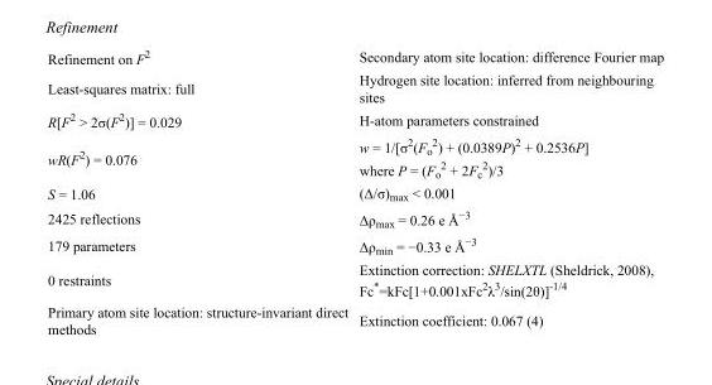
<table><tbody><tr><td>Refinement on F<sup>2</sup></td><td>Secondary atom site location: difference Fourier map</td></tr><tr><td>Least-squares matrix: full</td><td>Hydrogen site location: inferred from neighbouring sites</td></tr><tr><td>R[F<sup>2</sup> &gt; 2σ(F<sup>2</sup>)] = 0.029</td><td>H-atom parameters constrained</td></tr><tr><td>wR(F<sup>2</sup>) = 0.076</td><td>w = 1/[σ<sup>2</sup>(F<sub>o</sub> <sup>2</sup>) + (0.0389P)<sup>2</sup> + 0.2536P] where P = (F<sub>o</sub> <sup>2</sup> + 2F<sub>c</sub> <sup>2</sup>)/3</td></tr><tr><td>S = 1.06</td><td>(Δ/σ)<sub>max</sub> &lt; 0.001</td></tr><tr><td>2425 reflections</td><td>Δρ<sub>max</sub> = 0.26 e Å<sup>−3</sup></td></tr><tr><td>179 parameters</td><td>Δρ<sub>min</sub> = −0.33 e Å<sup>−3</sup></td></tr><tr><td>0 restraints</td><td>Extinction correction: SHELXTL (Sheldrick, 2008), Fc*=kFc[1+0.001xFc<sup>2</sup>λ<sup>3</sup>/sin(2θ)]<sup>-1/4</sup></td></tr><tr><td>Primary atom site location: structure-invariant direct methods</td><td>Extinction coefficient: 0.067 (4)</td></tr></tbody></table>